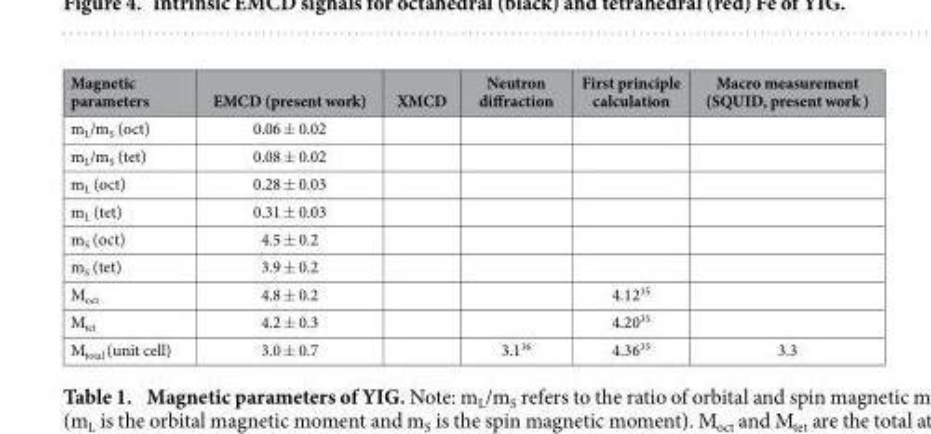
<table><thead><tr><td>Magnetic parameters</td><td>EMCD (present work)</td><td>XMCD</td><td>Neutron diffraction</td><td>First principle calculation</td><td>Macro measurement (SQUID, present work</td></tr></thead><tbody><tr><td>m<sub>L</sub>/m<sub>S</sub> (oct)</td><td>0.06 ± 0.02</td><td></td><td></td><td></td><td></td></tr><tr><td>m<sub>L</sub>/m<sub>S</sub> (tet)</td><td>0.08 ± 0.02</td><td></td><td></td><td></td><td></td></tr><tr><td>m<sub>L</sub> (oct)</td><td>0.28 ± 0.03</td><td></td><td></td><td></td><td></td></tr><tr><td>m<sub>L</sub> (tet)</td><td>0.31 ± 0.03</td><td></td><td></td><td></td><td></td></tr><tr><td>m<sub>S</sub> (oct)</td><td>4.5 ± 0.2</td><td></td><td></td><td></td><td></td></tr><tr><td>m<sub>S</sub> (tet)</td><td>3.9 ± 0.2</td><td></td><td></td><td></td><td></td></tr><tr><td>M<sub>oct</sub></td><td>4.8 ± 0.2</td><td></td><td></td><td>4.12<sup>35</sup></td><td></td></tr><tr><td>M<sub>tet</sub></td><td>4.2 ± 0.3</td><td></td><td></td><td>4.20<sup>35</sup></td><td></td></tr><tr><td>M<sub>total</sub> (unit cell)</td><td>3.0 ± 0.7</td><td></td><td>3.1<sup>36</sup></td><td>4.36<sup>35</sup></td><td>3.3</td></tr></tbody></table>